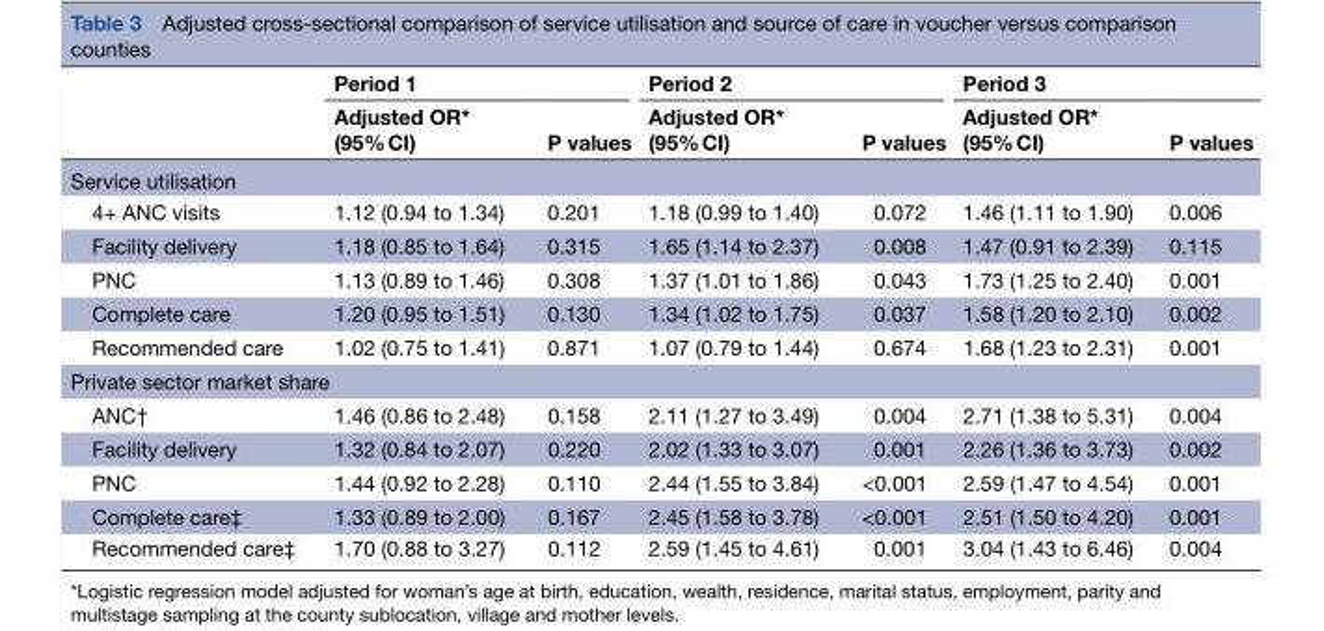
<table><thead><tr><td rowspan="2"></td><td colspan="2">Period 1</td><td colspan="2">Period 2</td><td colspan="2">Period 3</td></tr><tr><td>Adjusted OR* (95% CI)</td><td>P values</td><td>Adjusted OR* (95% CI)</td><td>P values</td><td>Adjusted OR* (95% CI)</td><td>P values</td></tr></thead><tbody><tr><td colspan="7">Service utilisation</td></tr><tr><td>4+ ANC visits</td><td>1.12 (0.94 to 1.34)</td><td>0.201</td><td>1.18 (0.99 to 1.40)</td><td>0.072</td><td>1.46 (1.11 to 1.90)</td><td>0.006</td></tr><tr><td>Facility delivery</td><td>1.18 (0.85 to 1.64)</td><td>0.315</td><td>1.65 (1.14 to 2.37)</td><td>0.008</td><td>1.47 (0.91 to 2.39)</td><td>0.115</td></tr><tr><td>PNC</td><td>1.13 (0.89 to 1.46)</td><td>0.308</td><td>1.37 (1.01 to 1.86)</td><td>0.043</td><td>1.73 (1.25 to 2.40)</td><td>0.001</td></tr><tr><td>Complete care</td><td>1.20 (0.95 to 1.51)</td><td>0.130</td><td>1.34 (1.02 to 1.75)</td><td>0.037</td><td>1.58 (1.20 to 2.10)</td><td>0.002</td></tr><tr><td>Recommended care</td><td>1.02 (0.75 to 1.41)</td><td>0.871</td><td>1.07 (0.79 to 1.44)</td><td>0.674</td><td>1.68 (1.23 to 2.31)</td><td>0.001</td></tr><tr><td colspan="7">Private sector market share</td></tr><tr><td>ANC†</td><td>1.46 (0.86 to 2.48)</td><td>0.158</td><td>2.11 (1.27 to 3.49)</td><td>0.004</td><td>2.71 (1.38 to 5.31)</td><td>0.004</td></tr><tr><td>Facility delivery</td><td>1.32 (0.84 to 2.07)</td><td>0.220</td><td>2.02 (1.33 to 3.07)</td><td>0.001</td><td>2.26 (1.36 to 3.73)</td><td>0.002</td></tr><tr><td>PNC</td><td>1.44 (0.92 to 2.28)</td><td>0.110</td><td>2.44 (1.55 to 3.84)</td><td>&lt;0.001</td><td>2.59 (1.47 to 4.54)</td><td>0.001</td></tr><tr><td>Complete care‡</td><td>1.33 (0.89 to 2.00)</td><td>0.167</td><td>2.45 (1.58 to 3.78)</td><td>&lt;0.001</td><td>2.51 (1.50 to 4.20)</td><td>0.001</td></tr><tr><td>Recommended care‡</td><td>1.70 (0.88 to 3.27)</td><td>0.112</td><td>2.59 (1.45 to 4.61)</td><td>0.001</td><td>3.04 (1.43 to 6.46)</td><td>0.004</td></tr></tbody></table>